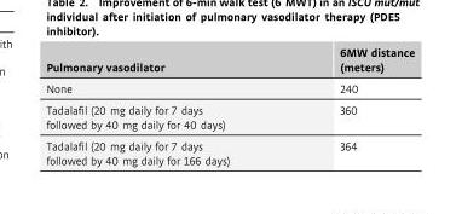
<table><thead><tr><td>Pulmonary vasodilator</td><td>6MW distance (meters)</td></tr></thead><tbody><tr><td>None</td><td>240</td></tr><tr><td>Tadalafil (20 mg daily for 7 days followed by 40 mg daily for 40 days)</td><td>360</td></tr><tr><td>Tadalafil (20 mg daily for 7 days followed by 40 mg daily for 166 days)</td><td>364</td></tr></tbody></table>